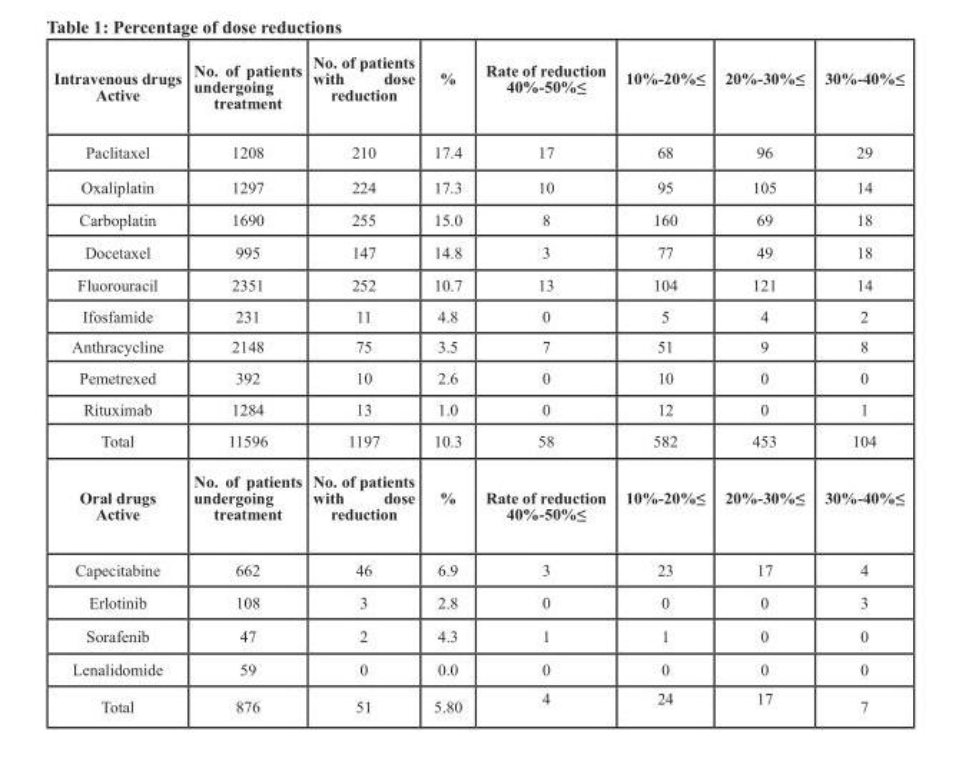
<table><thead><tr><td>Intravenous drugs Active</td><td>No. of patients undergoing treatment</td><td>No. of patients with dose reduction</td><td>%</td><td>Rate of reduction 40%-50%≤</td><td>10%-20%≤</td><td>20%-30%≤</td><td>30%-40%≤</td></tr></thead><tbody><tr><td>Paclitaxel</td><td>1208</td><td>210</td><td>17.4</td><td>17</td><td>68</td><td>96</td><td>29</td></tr><tr><td>Oxaliplatin</td><td>1297</td><td>224</td><td>17.3</td><td>10</td><td>95</td><td>105</td><td>14</td></tr><tr><td>Carboplatin</td><td>1690</td><td>255</td><td>15.0</td><td>8</td><td>160</td><td>69</td><td>18</td></tr><tr><td>Docetaxel</td><td>995</td><td>147</td><td>14.8</td><td>3</td><td>77</td><td>49</td><td>18</td></tr><tr><td>Fluorouracil</td><td>2351</td><td>252</td><td>10.7</td><td>13</td><td>104</td><td>121</td><td>14</td></tr><tr><td>Ifosfamide</td><td>231</td><td>11</td><td>4.8</td><td>0</td><td>5</td><td>4</td><td>2</td></tr><tr><td>Anthracycline</td><td>2148</td><td>75</td><td>3.5</td><td>7</td><td>51</td><td>9</td><td>8</td></tr><tr><td>Pemetrexed</td><td>392</td><td>10</td><td>2.6</td><td>0</td><td>10</td><td>0</td><td>0</td></tr><tr><td>Rituximab</td><td>1284</td><td>13</td><td>1.0</td><td>0</td><td>12</td><td>0</td><td>1</td></tr><tr><td>Total</td><td>11596</td><td>1197</td><td>10.3</td><td>58</td><td>582</td><td>453</td><td>104</td></tr><tr><td>Oral drugs Active</td><td>No. of patients undergoing treatment</td><td>No. of patients with dose reduction</td><td>%</td><td>Rate of reduction 40%-50%≤</td><td>10%-20%≤</td><td>20%-30%≤</td><td>30%-40%≤</td></tr><tr><td>Capecitabine</td><td>662</td><td>46</td><td>6.9</td><td>3</td><td>23</td><td>17</td><td>4</td></tr><tr><td>Erlotinib</td><td>108</td><td>3</td><td>2.8</td><td>0</td><td>0</td><td>0</td><td>3</td></tr><tr><td>Sorafenib</td><td>47</td><td>2</td><td>4.3</td><td>1</td><td>1</td><td>0</td><td>0</td></tr><tr><td>Lenalidomide</td><td>59</td><td>0</td><td>0.0</td><td>0</td><td>0</td><td>0</td><td>0</td></tr><tr><td>Total</td><td>876</td><td>51</td><td>5.80</td><td>4</td><td>24</td><td>17</td><td>7</td></tr></tbody></table>